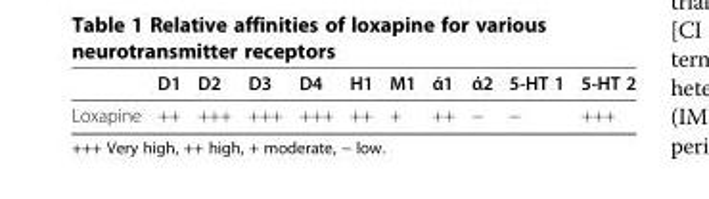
<table><thead><tr><td></td><td>D1</td><td>D2</td><td>D3</td><td>D4</td><td>H1</td><td>M1</td><td>ά1</td><td>ά2</td><td>5-HT 1</td><td>5-HT 2</td></tr></thead><tbody><tr><td>Loxapine</td><td>++</td><td>+++</td><td>+++</td><td>+++</td><td>++</td><td>+</td><td>++</td><td>−</td><td>−</td><td>+++</td></tr></tbody></table>